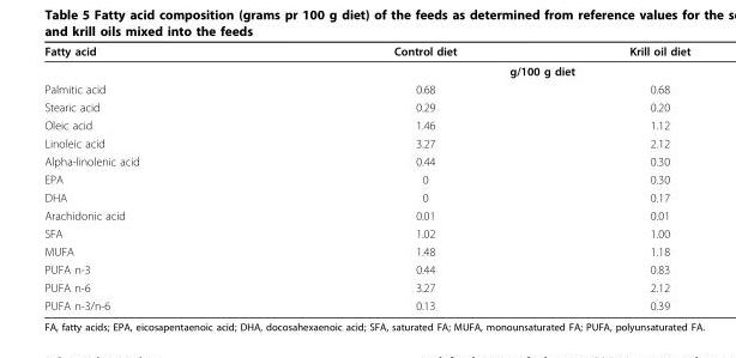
<table><thead><tr><td>Fatty acid</td><td>Control diet</td><td>Krill oil diet</td></tr></thead><tbody><tr><td></td><td colspan="2">g/100 g diet</td></tr><tr><td>Palmitic acid</td><td>0.68</td><td>0.68</td></tr><tr><td>Stearic acid</td><td>0.29</td><td>0.20</td></tr><tr><td>Oleic acid</td><td>1.46</td><td>1.12</td></tr><tr><td>Linoleic acid</td><td>3.27</td><td>2.12</td></tr><tr><td>Alpha-linolenic acid</td><td>0.44</td><td>0.30</td></tr><tr><td>EPA</td><td>0</td><td>0.30</td></tr><tr><td>DHA</td><td>0</td><td>0.17</td></tr><tr><td>Arachidonic acid</td><td>0.01</td><td>0.01</td></tr><tr><td>SFA</td><td>1.02</td><td>1.00</td></tr><tr><td>MUFA</td><td>1.48</td><td>1.18</td></tr><tr><td>PUFA n-3</td><td>0.44</td><td>0.83</td></tr><tr><td>PUFA n-6</td><td>3.27</td><td>2.12</td></tr><tr><td>PUFA n-3/n-6</td><td>0.13</td><td>0.39</td></tr></tbody></table>